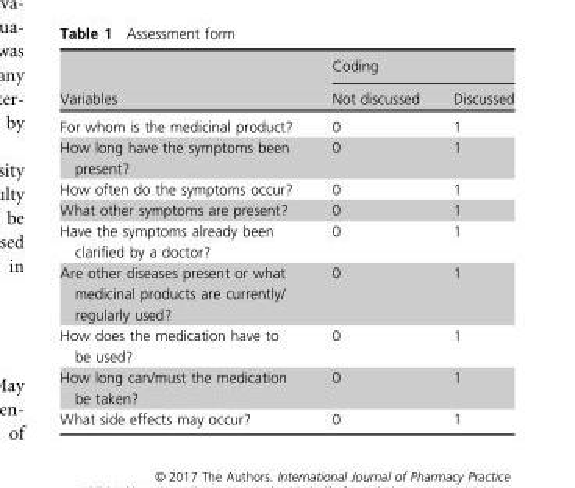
<table><thead><tr><td rowspan="2">Variables</td><td colspan="2">Coding</td></tr><tr><td>Not discussed</td><td>Discussed</td></tr></thead><tbody><tr><td>For whom is the medicinal product?</td><td>0</td><td>1</td></tr><tr><td>How long have the symptoms been present?</td><td>0</td><td>1</td></tr><tr><td>How often do the symptoms occur?</td><td>0</td><td>1</td></tr><tr><td>What other symptoms are present?</td><td>0</td><td>1</td></tr><tr><td>Have the symptoms already been clarified by a doctor?</td><td>0</td><td>1</td></tr><tr><td>Are other diseases present or what medicinal products are currently/ regularly used?</td><td>0</td><td>1</td></tr><tr><td>How does the medication have to be used?</td><td>0</td><td>1</td></tr><tr><td>How long can/must the medication be taken?</td><td>0</td><td>1</td></tr><tr><td>What side effects may occur?</td><td>0</td><td>1</td></tr></tbody></table>